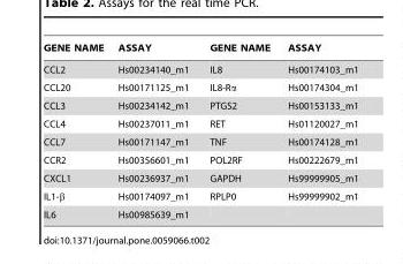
<table><thead><tr><td>GENE NAME</td><td>ASSAY</td><td>GENE NAME</td><td>ASSAY</td></tr></thead><tbody><tr><td>CCL2</td><td>Hs00234140_m1</td><td>IL8</td><td>Hs00174103_m1</td></tr><tr><td>CCL20</td><td>Hs00171125_m1</td><td>IL8-Rα</td><td>Hs00174304_m1</td></tr><tr><td>CCL3</td><td>Hs00234142_m1</td><td>PTGS2</td><td>Hs00153133_m1</td></tr><tr><td>CCL4</td><td>Hs00237011_m1</td><td>RET</td><td>Hs01120027_m1</td></tr><tr><td>CCL7</td><td>Hs00171147_m1</td><td>TNF</td><td>Hs00174128_m1</td></tr><tr><td>CCR2</td><td>Hs00356601_m1</td><td>POL2RF</td><td>Hs00222679_m1</td></tr><tr><td>CXCL1</td><td>Hs00236937_m1</td><td>GAPDH</td><td>Hs99999905_m1</td></tr><tr><td>IL1-β</td><td>Hs00174097_m1</td><td>RPLP0</td><td>Hs99999902_m1</td></tr><tr><td>IL6</td><td>Hs00985639_m1</td><td></td><td></td></tr></tbody></table>